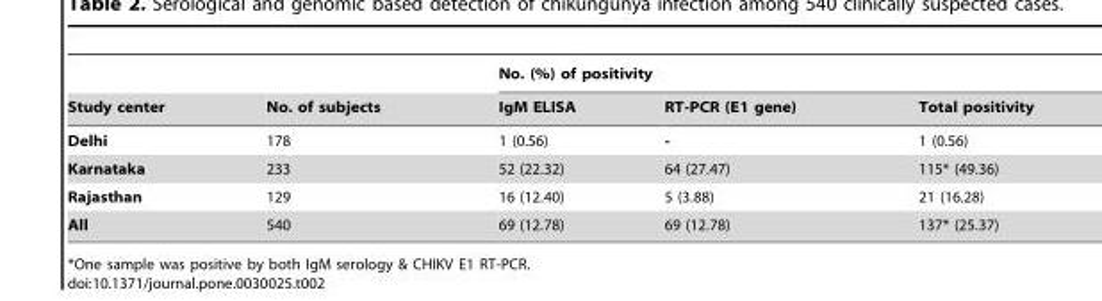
<table><thead><tr><td rowspan="2">Study center</td><td rowspan="2">No. of subjects</td><td colspan="3">No. (%) of positivity</td></tr><tr><td>IgM ELISA</td><td>RT-PCR (E1 gene)</td><td>Total positivity</td></tr></thead><tbody><tr><td>Delhi</td><td>178</td><td>1 (0.56)</td><td>-</td><td>1 (0.56)</td></tr><tr><td>Karnataka</td><td>233</td><td>52 (22.32)</td><td>64 (27.47)</td><td>115* (49.36)</td></tr><tr><td>Rajasthan</td><td>129</td><td>16 (12.40)</td><td>5 (3.88)</td><td>21 (16.28)</td></tr><tr><td>All</td><td>540</td><td>69 (12.78)</td><td>69 (12.78)</td><td>137* (25.37)</td></tr></tbody></table>